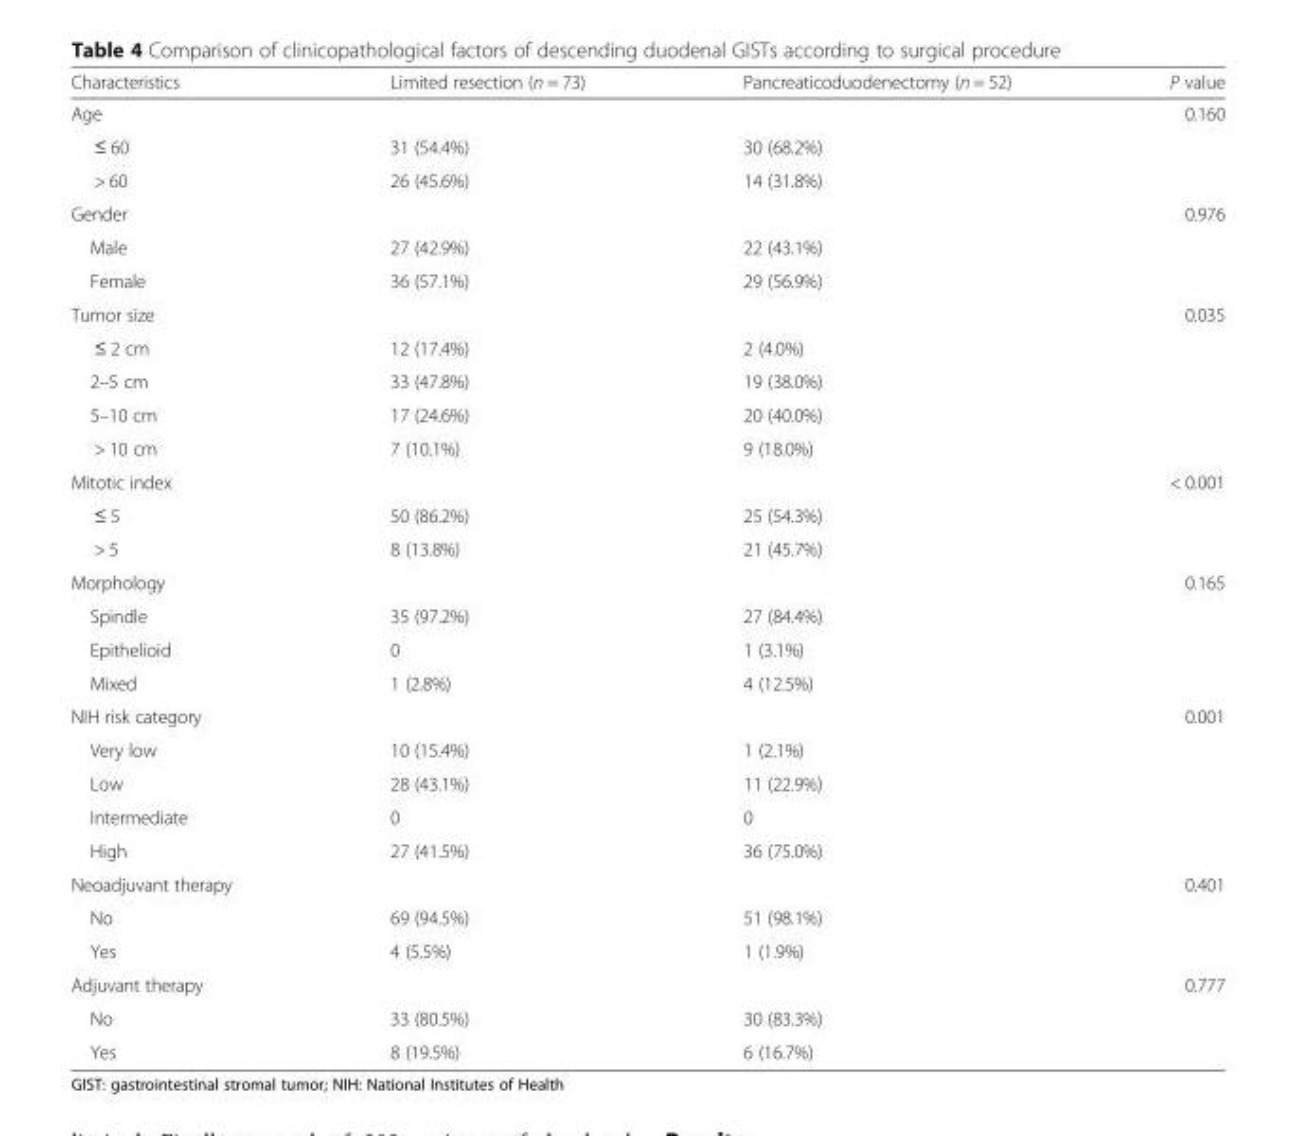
<table><thead><tr><td>Characteristics</td><td>Limited resection (n = 73)</td><td>Pancreaticoduodenectomy (n = 52)</td><td>P value</td></tr></thead><tbody><tr><td>Age</td><td></td><td></td><td>0.160</td></tr><tr><td>≤ 60</td><td>31 (54.4%)</td><td>30 (68.2%)</td><td></td></tr><tr><td>&gt; 60</td><td>26 (45.6%)</td><td>14 (31.8%)</td><td></td></tr><tr><td>Gender</td><td></td><td></td><td>0.976</td></tr><tr><td>Male</td><td>27 (42.9%)</td><td>22 (43.1%)</td><td></td></tr><tr><td>Female</td><td>36 (57.1%)</td><td>29 (56.9%)</td><td></td></tr><tr><td>Tumor size</td><td></td><td></td><td>0.035</td></tr><tr><td>≤ 2 cm</td><td>12 (17.4%)</td><td>2 (4.0%)</td><td></td></tr><tr><td>2–5 cm</td><td>33 (47.8%)</td><td>19 (38.0%)</td><td></td></tr><tr><td>5–10 cm</td><td>17 (24.6%)</td><td>20 (40.0%)</td><td></td></tr><tr><td>&gt; 10 cm</td><td>7 (10.1%)</td><td>9 (18.0%)</td><td></td></tr><tr><td>Mitotic index</td><td></td><td></td><td>&lt; 0.001</td></tr><tr><td>≤ 5</td><td>50 (86.2%)</td><td>25 (54.3%)</td><td></td></tr><tr><td>&gt; 5</td><td>8 (13.8%)</td><td>21 (45.7%)</td><td></td></tr><tr><td>Morphology</td><td></td><td></td><td>0.165</td></tr><tr><td>Spindle</td><td>35 (97.2%)</td><td>27 (84.4%)</td><td></td></tr><tr><td>Epithelioid</td><td>0</td><td>1 (3.1%)</td><td></td></tr><tr><td>Mixed</td><td>1 (2.8%)</td><td>4 (12.5%)</td><td></td></tr><tr><td>NIH risk category</td><td></td><td></td><td>0.001</td></tr><tr><td>Very low</td><td>10 (15.4%)</td><td>1 (2.1%)</td><td></td></tr><tr><td>Low</td><td>28 (43.1%)</td><td>11 (22.9%)</td><td></td></tr><tr><td>Intermediate</td><td>0</td><td>0</td><td></td></tr><tr><td>High</td><td>27 (41.5%)</td><td>36 (75.0%)</td><td></td></tr><tr><td>Neoadjuvant therapy</td><td></td><td></td><td>0.401</td></tr><tr><td>No</td><td>69 (94.5%)</td><td>51 (98.1%)</td><td></td></tr><tr><td>Yes</td><td>4 (5.5%)</td><td>1 (1.9%)</td><td></td></tr><tr><td>Adjuvant therapy</td><td></td><td></td><td>0.777</td></tr><tr><td>No</td><td>33 (80.5%)</td><td>30 (83.3%)</td><td></td></tr><tr><td>Yes</td><td>8 (19.5%)</td><td>6 (16.7%)</td><td></td></tr></tbody></table>